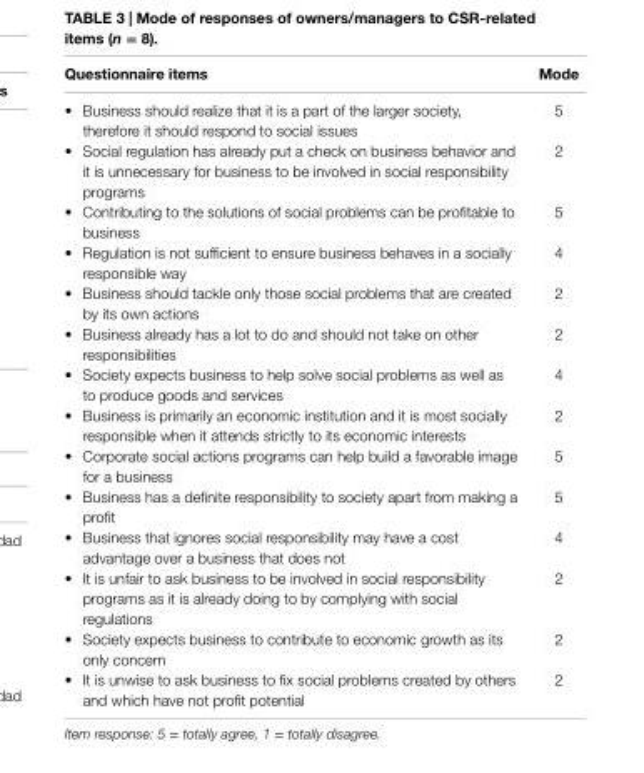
<table><thead><tr><td>Questionnaire items</td><td>Mode</td></tr></thead><tbody><tr><td>• Business should realize that it is a part of the larger society, therefore it should respond to social issues</td><td>5</td></tr><tr><td>• Social regulation has already put a check on business behavior and it is unnecessary for business to be involved in social responsibility programs</td><td>2</td></tr><tr><td>• Contributing to the solutions of social problems can be profitable to business</td><td>5</td></tr><tr><td>• Regulation is not sufficient to ensure business behaves in a socially responsible way</td><td>4</td></tr><tr><td>• Business should tackle only those social problems that are created by its own actions</td><td>2</td></tr><tr><td>• Business already has a lot to do and should not take on other responsibilities</td><td>2</td></tr><tr><td>• Society expects business to help solve social problems as well as to produce goods and services</td><td>4</td></tr><tr><td>• Business is primarily an economic institution and it is most socially responsible when it attends strictly to its economic interests</td><td>2</td></tr><tr><td>• Corporate social actions programs can help build a favorable image for a business</td><td>5</td></tr><tr><td>• Business has a definite responsibility to society apart from making a profit</td><td>5</td></tr><tr><td>• Business that ignores social responsibility may have a cost advantage over a business that does not</td><td>4</td></tr><tr><td>• It is unfair to ask business to be involved in social responsibility programs as it is already doing to by complying with social regulations</td><td>2</td></tr><tr><td>• Society expects business to contribute to economic growth as its only concern</td><td>2</td></tr><tr><td>• It is unwise to ask business to fix social problems created by others and which have not profit potential</td><td>2</td></tr></tbody></table>